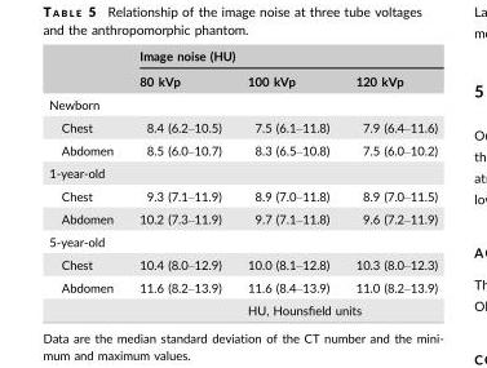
<table><thead><tr><td rowspan="2"></td><td colspan="3">Image noise (HU)</td></tr><tr><td>80 kVp</td><td>100 kVp</td><td>120 kVp</td></tr></thead><tbody><tr><td colspan="4">Newborn</td></tr><tr><td>Chest</td><td>8.4 (6.2–10.5)</td><td>7.5 (6.1–11.8)</td><td>7.9 (6.4–11.6)</td></tr><tr><td>Abdomen</td><td>8.5 (6.0–10.7)</td><td>8.3 (6.5–10.8)</td><td>7.5 (6.0–10.2)</td></tr><tr><td colspan="4">1-year-old</td></tr><tr><td>Chest</td><td>9.3 (7.1–11.9)</td><td>8.9 (7.0–11.8)</td><td>8.9 (7.0–11.5)</td></tr><tr><td>Abdomen</td><td>10.2 (7.3–11.9)</td><td>9.7 (7.1–11.8)</td><td>9.6 (7.2–11.9)</td></tr><tr><td colspan="4">5-year-old</td></tr><tr><td>Chest</td><td>10.4 (8.0–12.9)</td><td>10.0 (8.1–12.8)</td><td>10.3 (8.0–12.3)</td></tr><tr><td rowspan="2">Abdomen</td><td>11.6 (8.2–13.9)</td><td>11.6 (8.4–13.9)</td><td>11.0 (8.2–13.9)</td></tr><tr><td></td><td colspan="2">HU, Hounsfield units</td></tr></tbody></table>